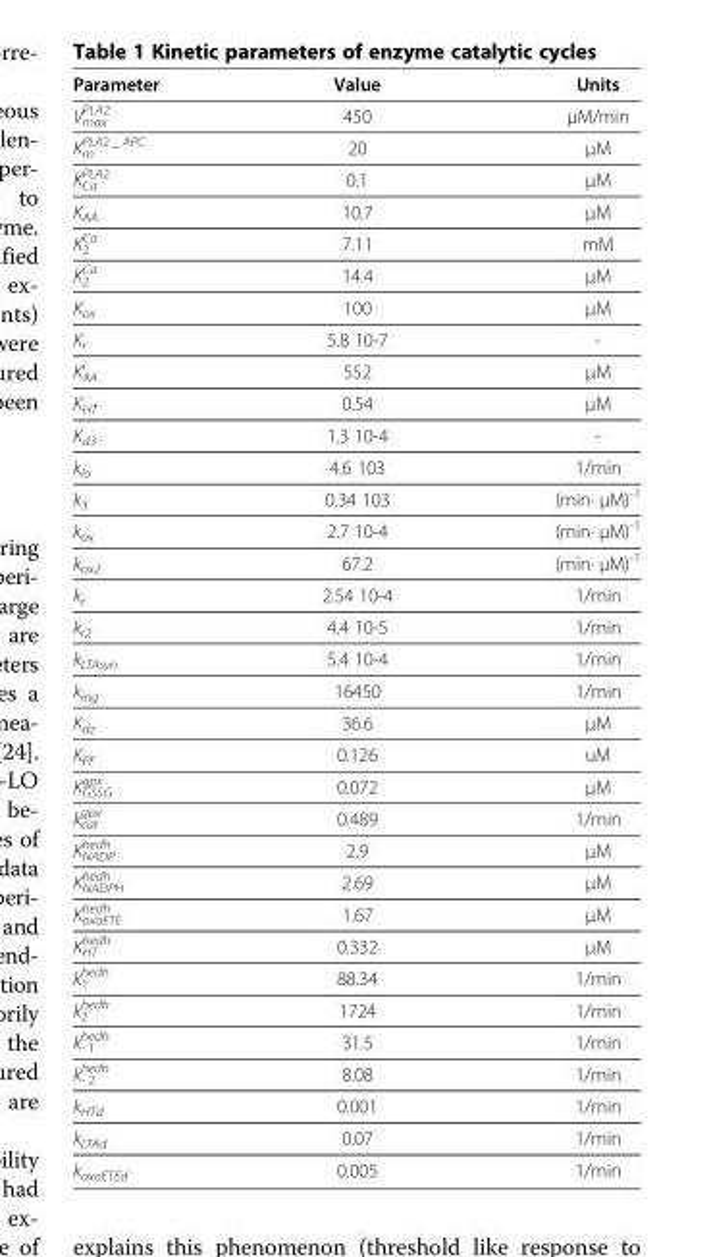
<table><thead><tr><td>Parameter</td><td>Value</td><td>Units</td></tr></thead><tbody><tr><td>V<sub>max</sub> <sup>PLA2</sup></td><td>450</td><td>μM/min</td></tr><tr><td>K<sub>m</sub> <sup>PLA2 _ APC</sup></td><td>20</td><td>μM</td></tr><tr><td>K<sub>Ca</sub> <sup>PLA2</sup></td><td>0.1</td><td>μM</td></tr><tr><td>K<sub>AA</sub></td><td>10.7</td><td>μM</td></tr><tr><td>K<sub>2</sub> <sup>Ca</sup></td><td>7.11</td><td>mM</td></tr><tr><td>K<sub>2</sub> <sup>Ca</sup></td><td>14.4</td><td>μM</td></tr><tr><td>K<sub>ox</sub></td><td>100</td><td>μM</td></tr><tr><td>K<sub>r</sub></td><td>5.8 10-7</td><td>-</td></tr><tr><td>K<sub>AA</sub> <sup>i</sup></td><td>552</td><td>μM</td></tr><tr><td>K<sub>HT</sub></td><td>0.54</td><td>μM</td></tr><tr><td>K<sub>d3</sub></td><td>1.3 10-4</td><td>-</td></tr><tr><td>k<sub>lo</sub></td><td>4.6 103</td><td>1/min</td></tr><tr><td>k<sub>3</sub></td><td>0.34 103</td><td>(min· μM)<sup>-1</sup></td></tr><tr><td>k<sub>ox</sub></td><td>2.7 10-4</td><td>(min· μM)<sup>-1</sup></td></tr><tr><td>k<sub>ox2</sub></td><td>67.2</td><td>(min· μM)<sup>-1</sup></td></tr><tr><td>k<sub>r</sub></td><td>2.54 10-4</td><td>1/min</td></tr><tr><td>k<sub>r2</sub></td><td>4.4 10-5</td><td>1/min</td></tr><tr><td>k<sub>LTAsyn</sub></td><td>5.4 10-4</td><td>1/min</td></tr><tr><td>k<sub>ing</sub></td><td>16450</td><td>1/min</td></tr><tr><td>K<sub>dz</sub></td><td>36.6</td><td>μM</td></tr><tr><td>K<sub>PF</sub></td><td>0.126</td><td>uM</td></tr><tr><td>K<sub>GSSG</sub> <sup>gpx</sup></td><td>0.072</td><td>μM</td></tr><tr><td>k<sub>cat</sub> <sup>gpx</sup></td><td>0.489</td><td>1/min</td></tr><tr><td>K<sub>NADP</sub> <sup>hedh</sup></td><td>2.9</td><td>μM</td></tr><tr><td>K<sub>NADPH</sub> <sup>hedh</sup></td><td>2.69</td><td>μM</td></tr><tr><td>K<sub>oxoETE</sub> <sup>hedh</sup></td><td>1.67</td><td>μM</td></tr><tr><td>K<sub>HT</sub> <sup>hedh</sup></td><td>0.332</td><td>μM</td></tr><tr><td>k<sub>1</sub> <sup>hedh</sup></td><td>88.34</td><td>1/min</td></tr><tr><td>k<sub>2</sub> <sup>hedh</sup></td><td>1724</td><td>1/min</td></tr><tr><td>k<sub>- 1</sub> <sup>hedh</sup></td><td>31.5</td><td>1/min</td></tr><tr><td>k<sub>- 2</sub> <sup>hedh</sup></td><td>8.08</td><td>1/min</td></tr><tr><td>k<sub>HTd</sub></td><td>0.001</td><td>1/min</td></tr><tr><td>k<sub>LTAd</sub></td><td>0.07</td><td>1/min</td></tr><tr><td>k<sub>oxoETEd</sub></td><td>0.005</td><td>1/min</td></tr></tbody></table>